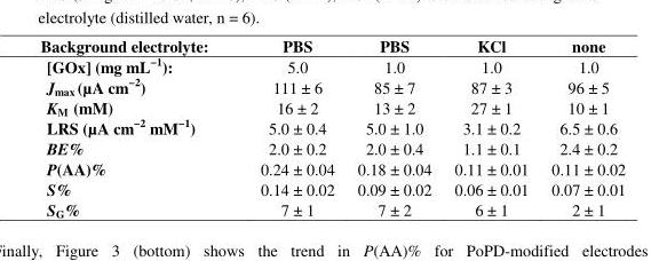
<table><thead><tr><td>Background electrolyte:</td><td>PBS</td><td>PBS</td><td>KCl</td><td>none</td></tr></thead><tbody><tr><td>[GOx] (mg mL<sup>−1</sup>):</td><td>5.0</td><td>1.0</td><td>1.0</td><td>1.0</td></tr><tr><td>J<sub>max</sub> (µA cm<sup>−2</sup>)</td><td>111 ± 6</td><td>85 ± 7</td><td>87 ± 3</td><td>96 ± 5</td></tr><tr><td>K<sub>M</sub> (mM)</td><td>16 ± 2</td><td>13 ± 2</td><td>27 ± 1</td><td>10 ± 1</td></tr><tr><td>LRS (µA cm<sup>−2</sup> mM<sup>−1</sup>)</td><td>5.0 ± 0.4</td><td>5.0 ± 1.0</td><td>3.1 ± 0.2</td><td>6.5 ± 0.6</td></tr><tr><td>BE%</td><td>2.0 ± 0.2</td><td>2.0 ± 0.4</td><td>1.1 ± 0.1</td><td>2.4 ± 0.2</td></tr><tr><td>P(AA)%</td><td>0.24 ± 0.04</td><td>0.18 ± 0.04</td><td>0.11 ± 0.01</td><td>0.11 ± 0.02</td></tr><tr><td>S%</td><td>0.14 ± 0.02</td><td>0.09 ± 0.02</td><td>0.06 ± 0.01</td><td>0.07 ± 0.01</td></tr><tr><td>S<sub>G</sub>%</td><td>7 ± 1</td><td>7 ± 2</td><td>6 ± 1</td><td>2 ± 1</td></tr></tbody></table>